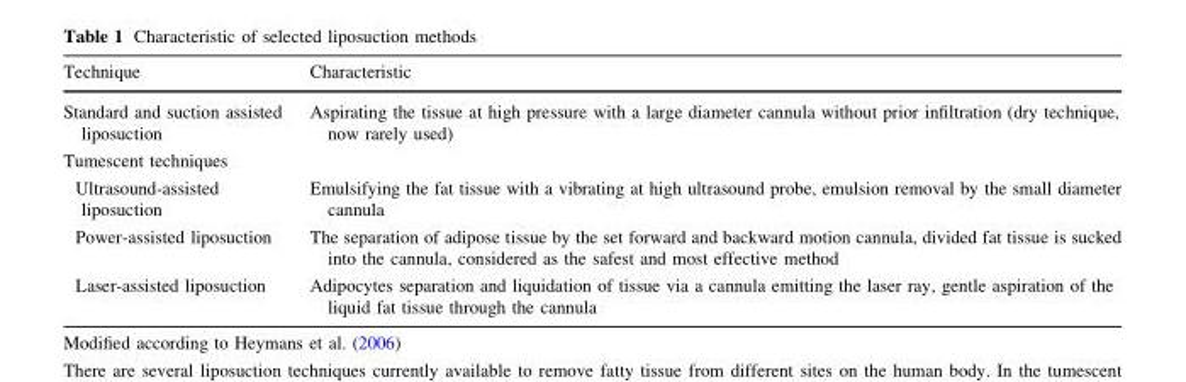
<table><thead><tr><td>Technique</td><td>Characteristic</td></tr></thead><tbody><tr><td>Standard and suction assisted liposuction</td><td>Aspirating the tissue at high pressure with a large diameter cannula without prior infiltration (dry technique, now rarely used)</td></tr><tr><td colspan="2">Tumescent techniques</td></tr><tr><td>Ultrasound-assisted liposuction</td><td>Emulsifying the fat tissue with a vibrating at high ultrasound probe, emulsion removal by the small diameter cannula</td></tr><tr><td>Power-assisted liposuction</td><td>The separation of adipose tissue by the set forward and backward motion cannula, divided fat tissue is sucked into the cannula, considered as the safest and most effective method</td></tr><tr><td>Laser-assisted liposuction</td><td>Adipocytes separation and liquidation of tissue via a cannula emitting the laser ray, gentle aspiration of the liquid fat tissue through the cannula</td></tr></tbody></table>